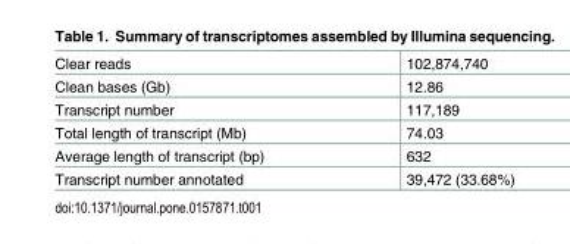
<table><tbody><tr><td>Clear reads</td><td>102,874,740</td></tr><tr><td>Clean bases (Gb)</td><td>12.86</td></tr><tr><td>Transcript number</td><td>117,189</td></tr><tr><td>Total length of transcript (Mb)</td><td>74.03</td></tr><tr><td>Average length of transcript (bp)</td><td>632</td></tr><tr><td>Transcript number annotated</td><td>39,472 (33.68%)</td></tr></tbody></table>